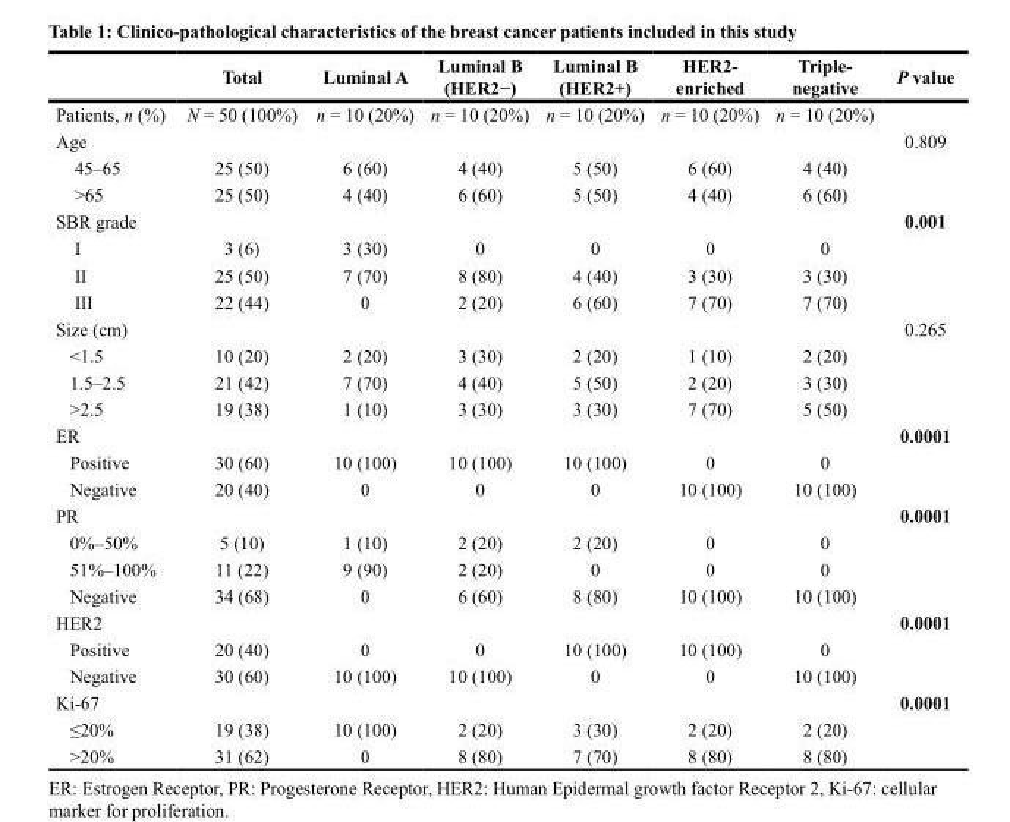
<table><thead><tr><td></td><td>Total</td><td>Luminal A</td><td>Luminal B (HER2−)</td><td>Luminal B (HER2+)</td><td>HER2- enriched</td><td>Triple- negative</td><td>P value</td></tr></thead><tbody><tr><td>Patients, n (%)</td><td>N = 50 (100%)</td><td>n = 10 (20%)</td><td>n = 10 (20%)</td><td>n = 10 (20%)</td><td>n = 10 (20%)</td><td>n = 10 (20%)</td><td></td></tr><tr><td>Age</td><td></td><td></td><td></td><td></td><td></td><td></td><td>0.809</td></tr><tr><td>45–65</td><td>25 (50)</td><td>6 (60)</td><td>4 (40)</td><td>5 (50)</td><td>6 (60)</td><td>4 (40)</td><td></td></tr><tr><td>&gt;65</td><td>25 (50)</td><td>4 (40)</td><td>6 (60)</td><td>5 (50)</td><td>4 (40)</td><td>6 (60)</td><td></td></tr><tr><td>SBR grade</td><td></td><td></td><td></td><td></td><td></td><td></td><td>0.001</td></tr><tr><td>I</td><td>3 (6)</td><td>3 (30)</td><td>0</td><td>0</td><td>0</td><td>0</td><td></td></tr><tr><td>II</td><td>25 (50)</td><td>7 (70)</td><td>8 (80)</td><td>4 (40)</td><td>3 (30)</td><td>3 (30)</td><td></td></tr><tr><td>III</td><td>22 (44)</td><td>0</td><td>2 (20)</td><td>6 (60)</td><td>7 (70)</td><td>7 (70)</td><td></td></tr><tr><td>Size (cm)</td><td></td><td></td><td></td><td></td><td></td><td></td><td>0.265</td></tr><tr><td>&lt;1.5</td><td>10 (20)</td><td>2 (20)</td><td>3 (30)</td><td>2 (20)</td><td>1 (10)</td><td>2 (20)</td><td></td></tr><tr><td>1.5–2.5</td><td>21 (42)</td><td>7 (70)</td><td>4 (40)</td><td>5 (50)</td><td>2 (20)</td><td>3 (30)</td><td></td></tr><tr><td>&gt;2.5</td><td>19 (38)</td><td>1 (10)</td><td>3 (30)</td><td>3 (30)</td><td>7 (70)</td><td>5 (50)</td><td></td></tr><tr><td>ER</td><td></td><td></td><td></td><td></td><td></td><td></td><td>0.0001</td></tr><tr><td>Positive</td><td>30 (60)</td><td>10 (100)</td><td>10 (100)</td><td>10 (100)</td><td>0</td><td>0</td><td></td></tr><tr><td>Negative</td><td>20 (40)</td><td>0</td><td>0</td><td>0</td><td>10 (100)</td><td>10 (100)</td><td></td></tr><tr><td>PR</td><td></td><td></td><td></td><td></td><td></td><td></td><td>0.0001</td></tr><tr><td>0%–50%</td><td>5 (10)</td><td>1 (10)</td><td>2 (20)</td><td>2 (20)</td><td>0</td><td>0</td><td></td></tr><tr><td>51%–100%</td><td>11 (22)</td><td>9 (90)</td><td>2 (20)</td><td>0</td><td>0</td><td>0</td><td></td></tr><tr><td>Negative</td><td>34 (68)</td><td>0</td><td>6 (60)</td><td>8 (80)</td><td>10 (100)</td><td>10 (100)</td><td></td></tr><tr><td>HER2</td><td></td><td></td><td></td><td></td><td></td><td></td><td>0.0001</td></tr><tr><td>Positive</td><td>20 (40)</td><td>0</td><td>0</td><td>10 (100)</td><td>10 (100)</td><td>0</td><td></td></tr><tr><td>Negative</td><td>30 (60)</td><td>10 (100)</td><td>10 (100)</td><td>0</td><td>0</td><td>10 (100)</td><td></td></tr><tr><td>Ki-67</td><td></td><td></td><td></td><td></td><td></td><td></td><td>0.0001</td></tr><tr><td>≤20%</td><td>19 (38)</td><td>10 (100)</td><td>2 (20)</td><td>3 (30)</td><td>2 (20)</td><td>2 (20)</td><td></td></tr><tr><td>&gt;20%</td><td>31 (62)</td><td>0</td><td>8 (80)</td><td>7 (70)</td><td>8 (80)</td><td>8 (80)</td><td></td></tr></tbody></table>